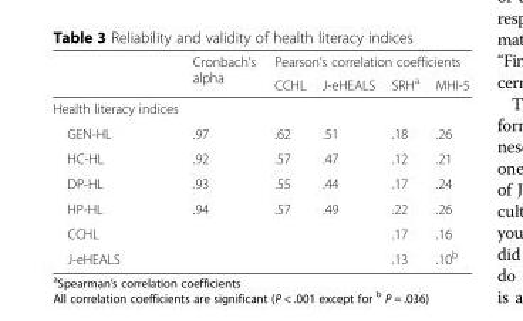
<table><thead><tr><td rowspan="2"></td><td rowspan="2">Cronbach’s alpha</td><td colspan="4">Pearson’s correlation coefficients</td></tr><tr><td>CCHL</td><td>J-eHEALS</td><td>SRH<sup>a</sup></td><td>MHI-5</td></tr></thead><tbody><tr><td colspan="6">Health literacy indices</td></tr><tr><td>GEN-HL</td><td>.97</td><td>.62</td><td>.51</td><td>.18</td><td>.26</td></tr><tr><td>HC-HL</td><td>.92</td><td>.57</td><td>.47</td><td>.12</td><td>.21</td></tr><tr><td>DP-HL</td><td>.93</td><td>.55</td><td>.44</td><td>.17</td><td>.24</td></tr><tr><td>HP-HL</td><td>.94</td><td>.57</td><td>.49</td><td>.22</td><td>.26</td></tr><tr><td>CCHL</td><td></td><td></td><td></td><td>.17</td><td>.16</td></tr><tr><td>J-eHEALS</td><td></td><td></td><td></td><td>.13</td><td>.10<sup>b</sup></td></tr></tbody></table>